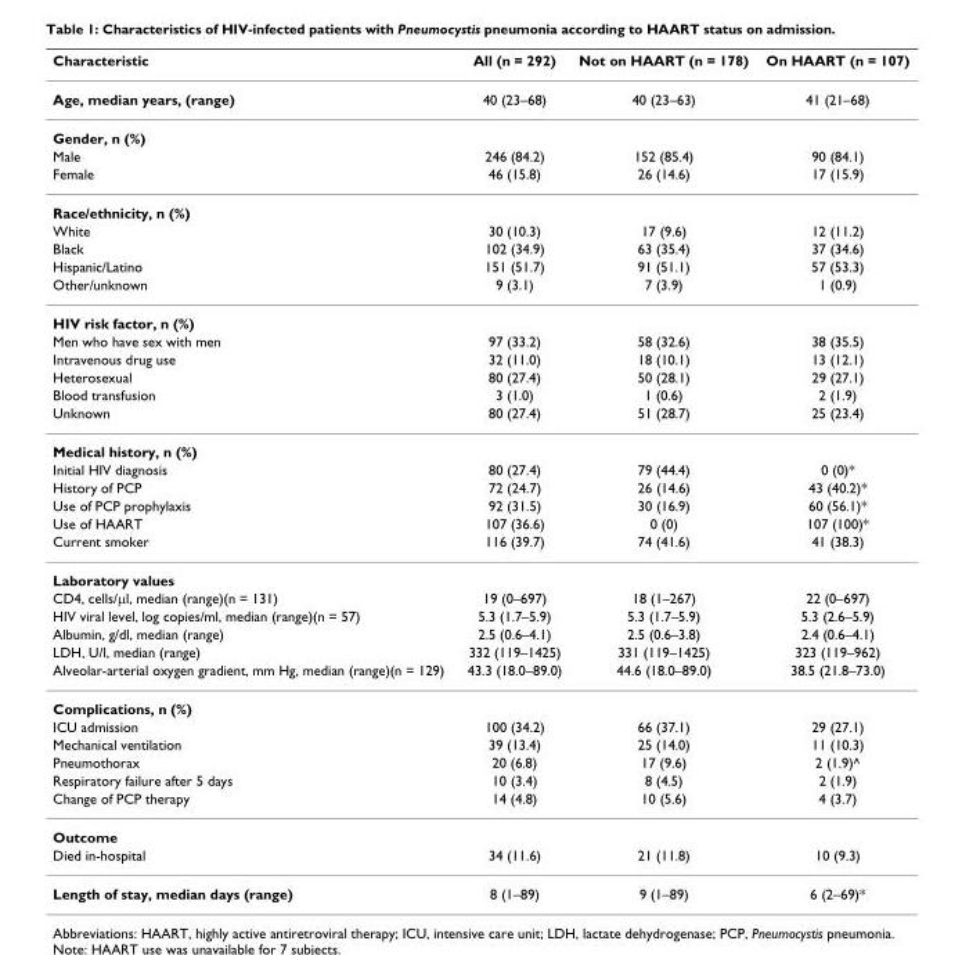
<table><thead><tr><td>Characteristic</td><td>All (n = 292)</td><td>Not on HAART (n = 178)</td><td>On HAART (n = 107)</td></tr></thead><tbody><tr><td>Age, median years, (range)</td><td>40 (23–68)</td><td>40 (23–63)</td><td>41 (21–68)</td></tr><tr><td colspan="4">Gender, n (%)</td></tr><tr><td>Male</td><td>246 (84.2)</td><td>152 (85.4)</td><td>90 (84.1)</td></tr><tr><td>Female</td><td>46 (15.8)</td><td>26 (14.6)</td><td>17 (15.9)</td></tr><tr><td colspan="4">Race/ethnicity, n (%)</td></tr><tr><td>White</td><td>30 (10.3)</td><td>17 (9.6)</td><td>12 (11.2)</td></tr><tr><td>Black</td><td>102 (34.9)</td><td>63 (35.4)</td><td>37 (34.6)</td></tr><tr><td>Hispanic/Latino</td><td>151 (51.7)</td><td>91 (51.1)</td><td>57 (53.3)</td></tr><tr><td>Other/unknown</td><td>9 (3.1)</td><td>7 (3.9)</td><td>1 (0.9)</td></tr><tr><td colspan="4">HIV risk factor, n (%)</td></tr><tr><td>Men who have sex with men</td><td>97 (33.2)</td><td>58 (32.6)</td><td>38 (35.5)</td></tr><tr><td>Intravenous drug use</td><td>32 (11.0)</td><td>18 (10.1)</td><td>13 (12.1)</td></tr><tr><td>Heterosexual</td><td>80 (27.4)</td><td>50 (28.1)</td><td>29 (27.1)</td></tr><tr><td>Blood transfusion</td><td>3 (1.0)</td><td>1 (0.6)</td><td>2 (1.9)</td></tr><tr><td>Unknown</td><td>80 (27.4)</td><td>51 (28.7)</td><td>25 (23.4)</td></tr><tr><td colspan="4">Medical history, n (%)</td></tr><tr><td>Initial HIV diagnosis</td><td>80 (27.4)</td><td>79 (44.4)</td><td>0 (0)*</td></tr><tr><td>History of PCP</td><td>72 (24.7)</td><td>26 (14.6)</td><td>43 (40.2)*</td></tr><tr><td>Use of PCP prophylaxis</td><td>92 (31.5)</td><td>30 (16.9)</td><td>60 (56.1)*</td></tr><tr><td>Use of HAART</td><td>107 (36.6)</td><td>0 (0)</td><td>107 (100)*</td></tr><tr><td>Current smoker</td><td>116 (39.7)</td><td>74 (41.6)</td><td>41 (38.3)</td></tr><tr><td colspan="4">Laboratory values</td></tr><tr><td>CD4, cells/μl, median (range)(n = 131)</td><td>19 (0–697)</td><td>18 (1–267)</td><td>22 (0–697)</td></tr><tr><td>HIV viral level, log copies/ml, median (range)(n = 57)</td><td>5.3 (1.7–5.9)</td><td>5.3 (1.7–5.9)</td><td>5.3 (2.6–5.9)</td></tr><tr><td>Albumin, g/dl, median (range)</td><td>2.5 (0.6–4.1)</td><td>2.5 (0.6–3.8)</td><td>2.4 (0.6–4.1)</td></tr><tr><td>LDH, U/l, median (range)</td><td>332 (119–1425)</td><td>331 (119–1425)</td><td>323 (119–962)</td></tr><tr><td>Alveolar-arterial oxygen gradient, mm Hg, median (range)(n = 129)</td><td>43.3 (18.0–89.0)</td><td>44.6 (18.0–89.0)</td><td>38.5 (21.8–73.0)</td></tr><tr><td colspan="4">Complications, n (%)</td></tr><tr><td>ICU admission</td><td>100 (34.2)</td><td>66 (37.1)</td><td>29 (27.1)</td></tr><tr><td>Mechanical ventilation</td><td>39 (13.4)</td><td>25 (14.0)</td><td>11 (10.3)</td></tr><tr><td>Pneumothorax</td><td>20 (6.8)</td><td>17 (9.6)</td><td>2 (1.9)^</td></tr><tr><td>Respiratory failure after 5 days</td><td>10 (3.4)</td><td>8 (4.5)</td><td>2 (1.9)</td></tr><tr><td>Change of PCP therapy</td><td>14 (4.8)</td><td>10 (5.6)</td><td>4 (3.7)</td></tr><tr><td colspan="4">Outcome</td></tr><tr><td>Died in-hospital</td><td>34 (11.6)</td><td>21 (11.8)</td><td>10 (9.3)</td></tr><tr><td>Length of stay, median days (range)</td><td>8 (1–89)</td><td>9 (1–89)</td><td>6 (2–69)*</td></tr></tbody></table>